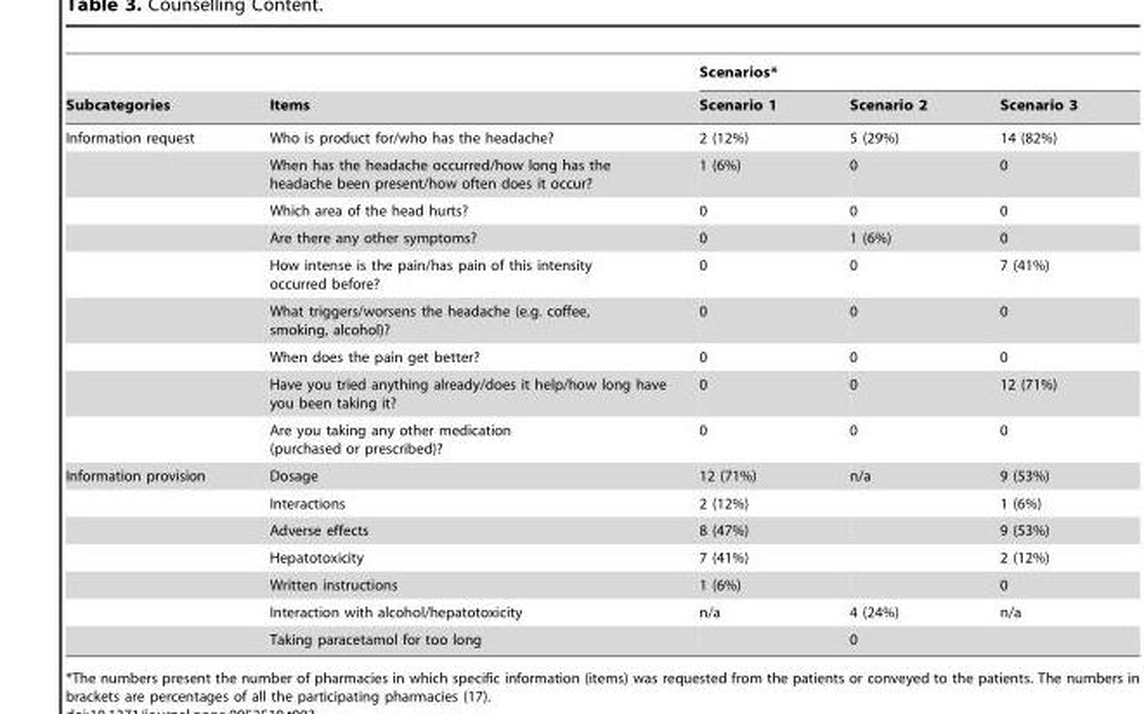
<table><thead><tr><td rowspan="2">Subcategories</td><td rowspan="2">Items</td><td colspan="3">Scenarios*</td></tr><tr><td>Scenario 1</td><td>Scenario 2</td><td>Scenario 3</td></tr></thead><tbody><tr><td rowspan="9">Information request</td><td>Who is product for/who has the headache?</td><td>2 (12%)</td><td>5 (29%)</td><td>14 (82%)</td></tr><tr><td>When has the headache occurred/how long has the headache been present/how often does it occur?</td><td>1 (6%)</td><td>0</td><td>0</td></tr><tr><td>Which area of the head hurts?</td><td>0</td><td>0</td><td>0</td></tr><tr><td>Are there any other symptoms?</td><td>0</td><td>1 (6%)</td><td>0</td></tr><tr><td>How intense is the pain/has pain of this intensity occurred before?</td><td>0</td><td>0</td><td>7 (41%)</td></tr><tr><td>What triggers/worsens the headache (e.g. coffee, smoking, alcohol)?</td><td>0</td><td>0</td><td>0</td></tr><tr><td>When does the pain get better?</td><td>0</td><td>0</td><td>0</td></tr><tr><td>Have you tried anything already/does it help/how long have you been taking it?</td><td>0</td><td>0</td><td>12 (71%)</td></tr><tr><td>Are you taking any other medication (purchased or prescribed)?</td><td>0</td><td>0</td><td>0</td></tr><tr><td rowspan="7">Information provision</td><td>Dosage</td><td>12 (71%)</td><td>n/a</td><td>9 (53%)</td></tr><tr><td>Interactions</td><td>2 (12%)</td><td></td><td>1 (6%)</td></tr><tr><td>Adverse effects</td><td>8 (47%)</td><td></td><td>9 (53%)</td></tr><tr><td>Hepatotoxicity</td><td>7 (41%)</td><td></td><td>2 (12%)</td></tr><tr><td>Written instructions</td><td>1 (6%)</td><td></td><td>0</td></tr><tr><td>Interaction with alcohol/hepatotoxicity</td><td>n/a</td><td>4 (24%)</td><td>n/a</td></tr><tr><td>Taking paracetamol for too long</td><td></td><td>0</td><td></td></tr></tbody></table>